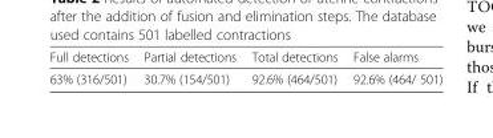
<table><thead><tr><td>Full detections</td><td>Partial detections</td><td>Total detections</td><td>False alarms</td></tr></thead><tbody><tr><td>63% (316/501)</td><td>30.7% (154/501)</td><td>92.6% (464/501)</td><td>92.6% (464/ 501)</td></tr></tbody></table>